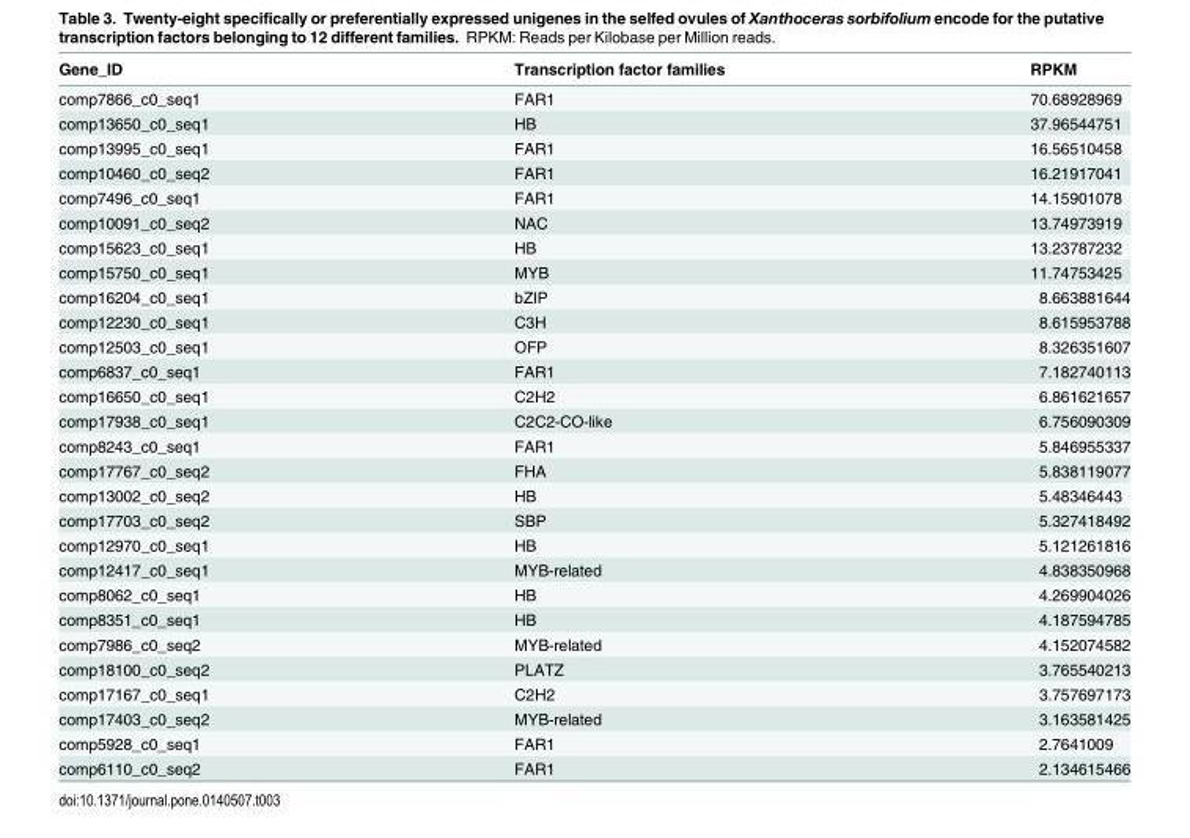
<table><thead><tr><td>Gene_ID</td><td>Transcription factor families</td><td>RPKM</td></tr></thead><tbody><tr><td>comp7866_c0_seq1</td><td>FAR1</td><td>70.68928969</td></tr><tr><td>comp13650_c0_seq1</td><td>HB</td><td>37.96544751</td></tr><tr><td>comp13995_c0_seq1</td><td>FAR1</td><td>16.56510458</td></tr><tr><td>comp10460_c0_seq2</td><td>FAR1</td><td>16.21917041</td></tr><tr><td>comp7496_c0_seq1</td><td>FAR1</td><td>14.15901078</td></tr><tr><td>comp10091_c0_seq2</td><td>NAC</td><td>13.74973919</td></tr><tr><td>comp15623_c0_seq1</td><td>HB</td><td>13.23787232</td></tr><tr><td>comp15750_c0_seq1</td><td>MYB</td><td>11.74753425</td></tr><tr><td>comp16204_c0_seq1</td><td>bZIP</td><td>8.663881644</td></tr><tr><td>comp12230_c0_seq1</td><td>C3H</td><td>8.615953788</td></tr><tr><td>comp12503_c0_seq1</td><td>OFP</td><td>8.326351607</td></tr><tr><td>comp6837_c0_seq1</td><td>FAR1</td><td>7.182740113</td></tr><tr><td>comp16650_c0_seq1</td><td>C2H2</td><td>6.861621657</td></tr><tr><td>comp17938_c0_seq1</td><td>C2C2-CO-like</td><td>6.756090309</td></tr><tr><td>comp8243_c0_seq1</td><td>FAR1</td><td>5.846955337</td></tr><tr><td>comp17767_c0_seq2</td><td>FHA</td><td>5.838119077</td></tr><tr><td>comp13002_c0_seq2</td><td>HB</td><td>5.48346443</td></tr><tr><td>comp17703_c0_seq2</td><td>SBP</td><td>5.327418492</td></tr><tr><td>comp12970_c0_seq1</td><td>HB</td><td>5.121261816</td></tr><tr><td>comp12417_c0_seq1</td><td>MYB-related</td><td>4.838350968</td></tr><tr><td>comp8062_c0_seq1</td><td>HB</td><td>4.269904026</td></tr><tr><td>comp8351_c0_seq1</td><td>HB</td><td>4.187594785</td></tr><tr><td>comp7986_c0_seq2</td><td>MYB-related</td><td>4.152074582</td></tr><tr><td>comp18100_c0_seq2</td><td>PLATZ</td><td>3.765540213</td></tr><tr><td>comp17167_c0_seq1</td><td>C2H2</td><td>3.757697173</td></tr><tr><td>comp17403_c0_seq2</td><td>MYB-related</td><td>3.163581425</td></tr><tr><td>comp5928_c0_seq1</td><td>FAR1</td><td>2.7641009</td></tr><tr><td>comp6110_c0_seq2</td><td>FAR1</td><td>2.134615466</td></tr></tbody></table>